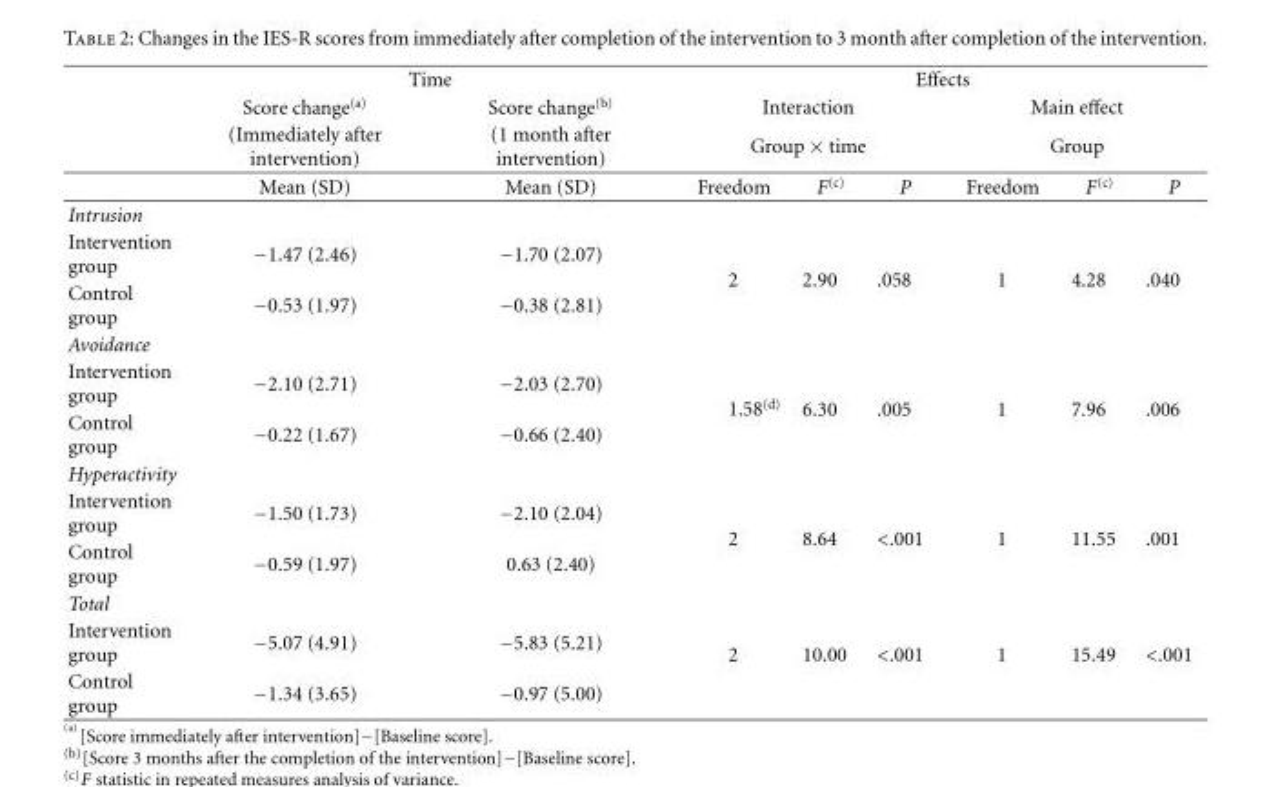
<table><thead><tr><td rowspan="4"></td><td colspan="2">Time</td><td colspan="6">Effects</td></tr><tr><td rowspan="3">Score change(a) (Immediately after intervention) Mean (SD)</td><td rowspan="3">Score change(b) (1 month after intervention) Mean (SD)</td><td rowspan="2" colspan="3">Interaction Group × time</td><td rowspan="2" colspan="3">Main effect Group</td></tr><tr></tr><tr><td>Freedom</td><td>F(c)</td><td>P</td><td>Freedom</td><td>F(c)</td><td>P</td></tr></thead><tbody><tr><td colspan="9">Intrusion</td></tr><tr><td>Intervention group</td><td>−1.47 (2.46)</td><td>−1.70 (2.07)</td><td rowspan="3">2</td><td rowspan="3">2.90</td><td rowspan="3">.058</td><td rowspan="3">1</td><td rowspan="3">4.28</td><td rowspan="3">.040</td></tr><tr><td>Control group</td><td>−0.53 (1.97)</td><td>−0.38 (2.81)</td></tr><tr><td colspan="3">Avoidance</td></tr><tr><td>Intervention group</td><td>−2.10 (2.71)</td><td>−2.03 (2.70)</td><td rowspan="3">1.58<sup>(d)</sup></td><td rowspan="3">6.30</td><td rowspan="3">.005</td><td rowspan="3">1</td><td rowspan="3">7.96</td><td rowspan="3">.006</td></tr><tr><td>Control group</td><td>−0.22 (1.67)</td><td>−0.66 (2.40)</td></tr><tr><td colspan="3">Hyperactivity</td></tr><tr><td>Intervention group</td><td>−1.50 (1.73)</td><td>−2.10 (2.04)</td><td rowspan="3">2</td><td rowspan="3">8.64</td><td rowspan="3">&lt;.001</td><td rowspan="3">1</td><td rowspan="3">11.55</td><td rowspan="3">.001</td></tr><tr><td>Control group</td><td>−0.59 (1.97)</td><td>0.63 (2.40)</td></tr><tr><td colspan="3">Total</td></tr><tr><td>Intervention group</td><td>−5.07 (4.91)</td><td>−5.83 (5.21)</td><td rowspan="2">2</td><td rowspan="2">10.00</td><td rowspan="2">&lt;.001</td><td rowspan="2">1</td><td rowspan="2">15.49</td><td rowspan="2">&lt;.001</td></tr><tr><td>Control group</td><td>−1.34 (3.65)</td><td>−0.97 (5.00)</td></tr></tbody></table>